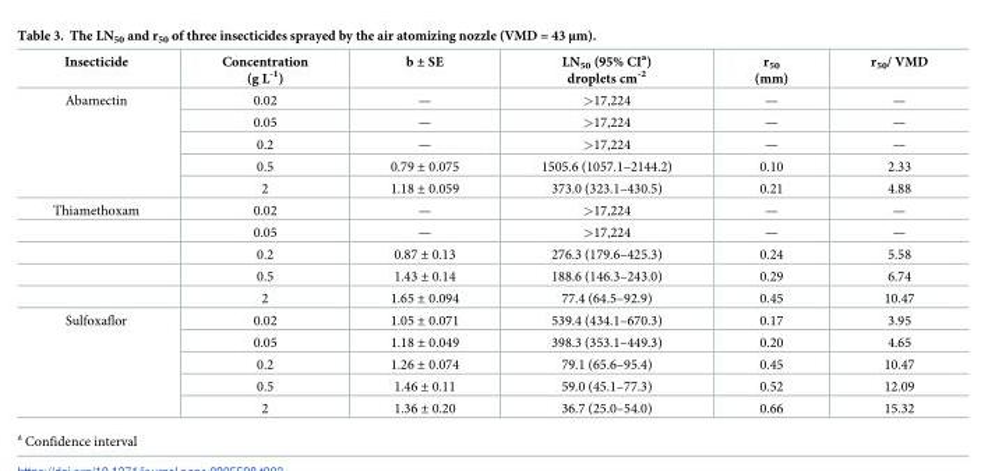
<table><thead><tr><td>Insecticide</td><td>Concentration (g L<sup>-1</sup>)</td><td>b ± SE</td><td>LN<sub>50</sub> (95% CI<sup>a</sup>) droplets cm<sup>-2</sup></td><td>r<sub>50</sub> (mm)</td><td>r<sub>50</sub>/ VMD</td></tr></thead><tbody><tr><td rowspan="5">Abamectin</td><td>0.02</td><td>—</td><td>&gt;17,224</td><td>—</td><td>—</td></tr><tr><td>0.05</td><td>—</td><td>&gt;17,224</td><td>—</td><td>—</td></tr><tr><td>0.2</td><td>—</td><td>&gt;17,224</td><td>—</td><td>—</td></tr><tr><td>0.5</td><td>0.79 ± 0.075</td><td>1505.6 (1057.1–2144.2)</td><td>0.10</td><td>2.33</td></tr><tr><td>2</td><td>1.18 ± 0.059</td><td>373.0 (323.1–430.5)</td><td>0.21</td><td>4.88</td></tr><tr><td rowspan="5">Thiamethoxam</td><td>0.02</td><td>—</td><td>&gt;17,224</td><td>—</td><td>—</td></tr><tr><td>0.05</td><td>—</td><td>&gt;17,224</td><td>—</td><td>—</td></tr><tr><td>0.2</td><td>0.87 ± 0.13</td><td>276.3 (179.6–425.3)</td><td>0.24</td><td>5.58</td></tr><tr><td>0.5</td><td>1.43 ± 0.14</td><td>188.6 (146.3–243.0)</td><td>0.29</td><td>6.74</td></tr><tr><td>2</td><td>1.65 ± 0.094</td><td>77.4 (64.5–92.9)</td><td>0.45</td><td>10.47</td></tr><tr><td rowspan="5">Sulfoxaflor</td><td>0.02</td><td>1.05 ± 0.071</td><td>539.4 (434.1–670.3)</td><td>0.17</td><td>3.95</td></tr><tr><td>0.05</td><td>1.18 ± 0.049</td><td>398.3 (353.1–449.3)</td><td>0.20</td><td>4.65</td></tr><tr><td>0.2</td><td>1.26 ± 0.074</td><td>79.1 (65.6–95.4)</td><td>0.45</td><td>10.47</td></tr><tr><td>0.5</td><td>1.46 ± 0.11</td><td>59.0 (45.1–77.3)</td><td>0.52</td><td>12.09</td></tr><tr><td>2</td><td>1.36 ± 0.20</td><td>36.7 (25.0–54.0)</td><td>0.66</td><td>15.32</td></tr></tbody></table>